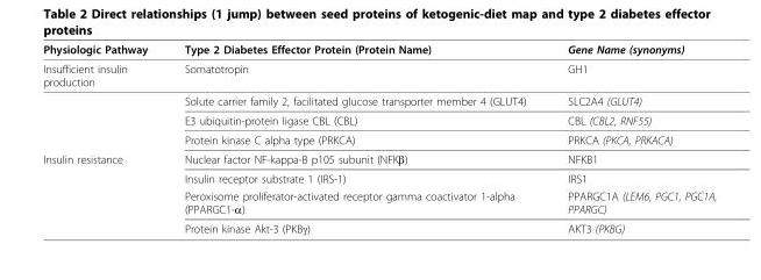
<table><thead><tr><td>Physiologic Pathway</td><td>Type 2 Diabetes Effector Protein (Protein Name)</td><td>Gene Name (synonyms)</td></tr></thead><tbody><tr><td rowspan="4">Insufficient insulin production</td><td>Somatotropin</td><td>GH1</td></tr><tr><td>Solute carrier family 2, facilitated glucose transporter member 4 (GLUT4)</td><td>SLC2A4 (GLUT4)</td></tr><tr><td>E3 ubiquitin-protein ligase CBL (CBL)</td><td>CBL (CBL2, RNF55)</td></tr><tr><td>Protein kinase C alpha type (PRKCA)</td><td>PRKCA (PKCA, PRKACA)</td></tr><tr><td rowspan="4">Insulin resistance</td><td>Nuclear factor NF-kappa-B p105 subunit (NFKβ)</td><td>NFKB1</td></tr><tr><td>Insulin receptor substrate 1 (IRS-1)</td><td>IRS1</td></tr><tr><td>Peroxisome proliferator-activated receptor gamma coactivator 1-alpha (PPARGC1-α)</td><td>PPARGC1A (LEM6, PGC1, PGC1A, PPARGC)</td></tr><tr><td>Protein kinase Akt-3 (PKBγ)</td><td>AKT3 (PKBG)</td></tr></tbody></table>